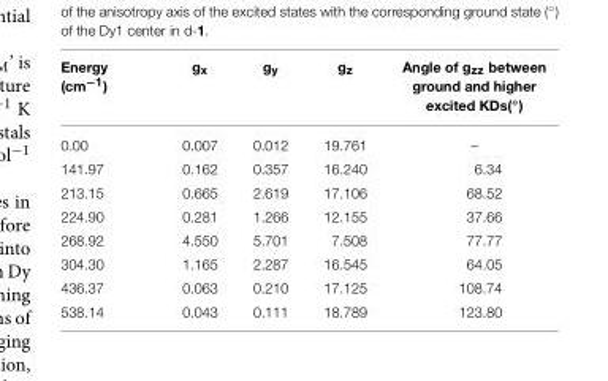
<table><thead><tr><td>Energy (cm<sup>−1</sup>)</td><td>g<sub>x</sub></td><td>g<sub>y</sub></td><td>g<sub>z</sub></td><td>Angle of gzz between ground and higher excited KDs(◦)</td></tr></thead><tbody><tr><td>0.00</td><td>0.007</td><td>0.012</td><td>19.761</td><td>–</td></tr><tr><td>141.97</td><td>0.162</td><td>0.357</td><td>16.240</td><td>6.34</td></tr><tr><td>213.15</td><td>0.665</td><td>2.619</td><td>17.106</td><td>68.52</td></tr><tr><td>224.90</td><td>0.281</td><td>1.266</td><td>12.155</td><td>37.66</td></tr><tr><td>268.92</td><td>4.550</td><td>5.701</td><td>7.508</td><td>77.77</td></tr><tr><td>304.30</td><td>1.165</td><td>2.287</td><td>16.545</td><td>64.05</td></tr><tr><td>436.37</td><td>0.063</td><td>0.210</td><td>17.125</td><td>108.74</td></tr><tr><td>538.14</td><td>0.043</td><td>0.111</td><td>18.789</td><td>123.80</td></tr></tbody></table>